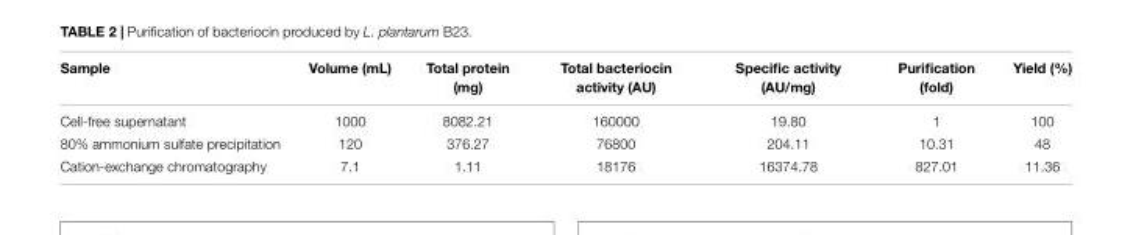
<table><thead><tr><td>Sample</td><td>Volume (mL)</td><td>Total protein (mg)</td><td>Total bacteriocin activity (AU)</td><td>Specific activity (AU/mg)</td><td>Purification (fold)</td><td>Yield (%)</td></tr></thead><tbody><tr><td>Cell-free supernatant</td><td>1000</td><td>8082.21</td><td>160000</td><td>19.80</td><td>1</td><td>100</td></tr><tr><td>80% ammonium sulfate precipitation</td><td>120</td><td>376.27</td><td>76800</td><td>204.11</td><td>10.31</td><td>48</td></tr><tr><td>Cation-exchange chromatography</td><td>7.1</td><td>1.11</td><td>18176</td><td>16374.78</td><td>827.01</td><td>11.36</td></tr></tbody></table>